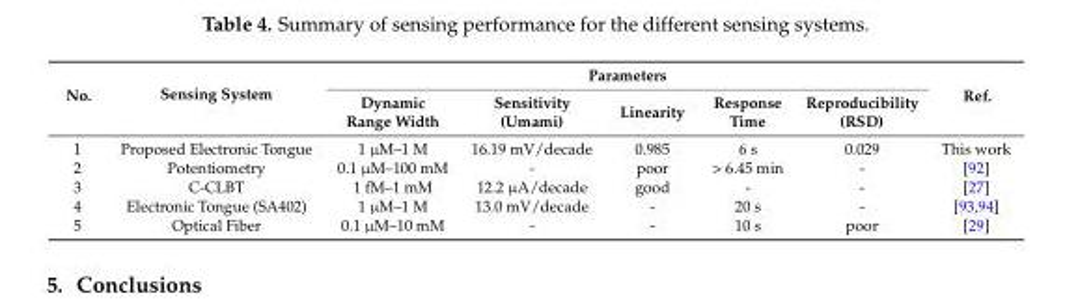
<table><thead><tr><td rowspan="2">No.</td><td rowspan="2">Sensing System</td><td colspan="5">Parameters</td><td rowspan="2">Ref.</td></tr><tr><td>Dynamic Range Width</td><td>Sensitivity (Umami)</td><td>Linearity</td><td>Response Time</td><td>Reproducibility (RSD)</td></tr></thead><tbody><tr><td>1</td><td>Proposed Electronic Tongue</td><td>1 µM–1 M</td><td>16.19 mV/decade</td><td>0.985</td><td>6 s</td><td>0.029</td><td>This work</td></tr><tr><td>2</td><td>Potentiometry</td><td>0.1 µM–100 mM</td><td>-</td><td>poor</td><td>&gt; 6.45 min</td><td>-</td><td>[92]</td></tr><tr><td>3</td><td>C-CLBT</td><td>1 fM–1 mM</td><td>12.2 µA/decade</td><td>good</td><td>-</td><td>-</td><td>[27]</td></tr><tr><td>4</td><td>Electronic Tongue (SA402)</td><td>1 µM–1 M</td><td>13.0 mV/decade</td><td>-</td><td>20 s</td><td>-</td><td>[93,94]</td></tr><tr><td>5</td><td>Optical Fiber</td><td>0.1 µM–10 mM</td><td>-</td><td>-</td><td>10 s</td><td>poor</td><td>[29]</td></tr></tbody></table>